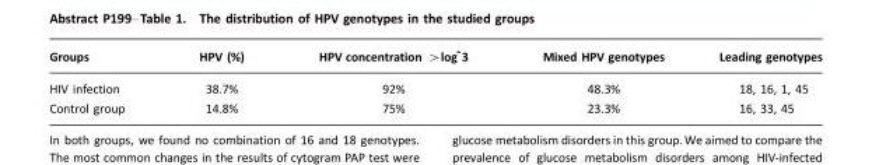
<table><thead><tr><td>Groups</td><td>HPV (%)</td><td>HPV concentration �logˆ3</td><td>Mixed HPV genotypes</td><td>Leading genotypes</td></tr></thead><tbody><tr><td>HIV infection</td><td>38.7%</td><td>92%</td><td>48.3%</td><td>18, 16, 1, 45</td></tr><tr><td>Control group</td><td>14.8%</td><td>75%</td><td>23.3%</td><td>16, 33, 45</td></tr></tbody></table>